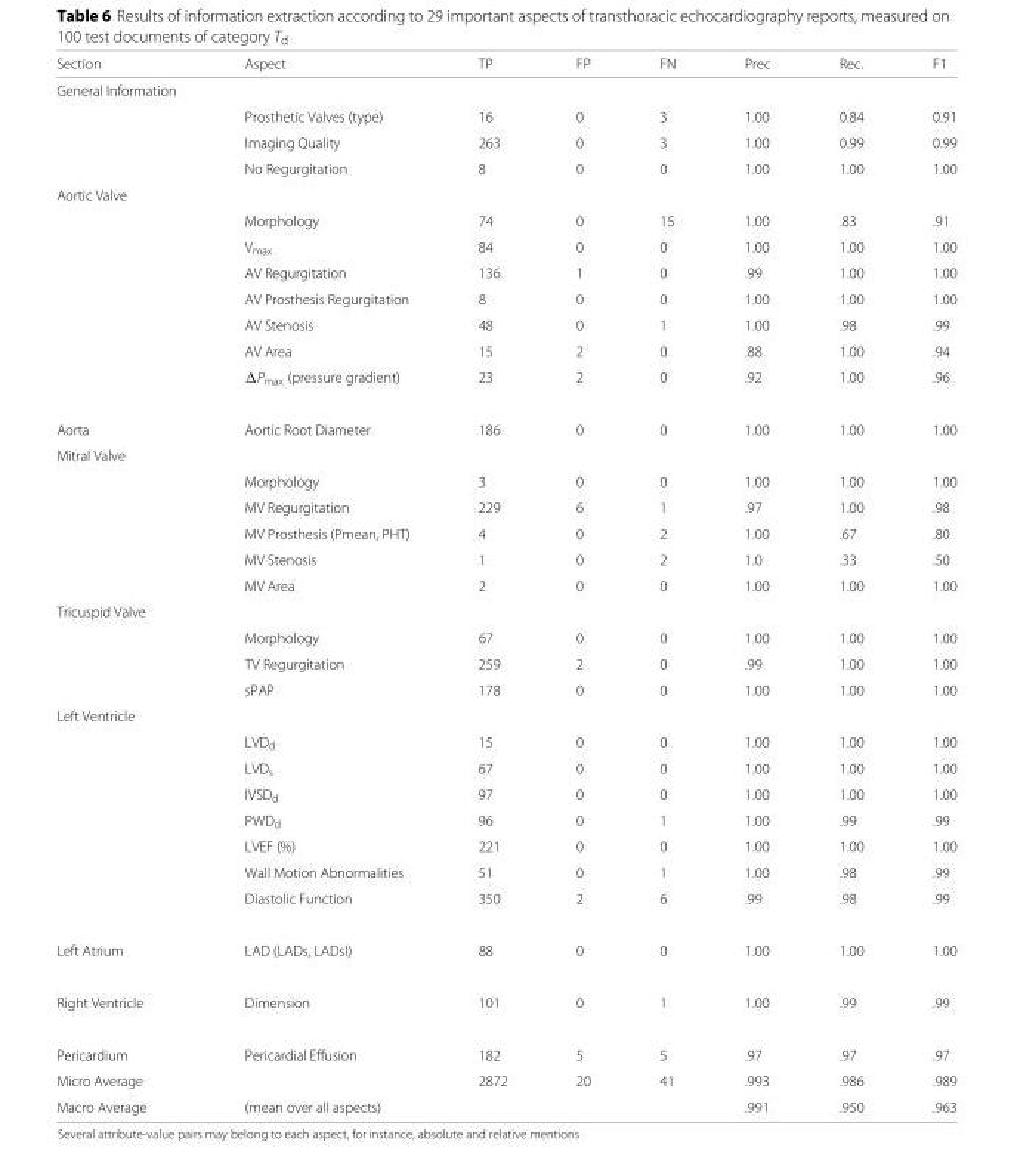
<table><thead><tr><td>Section</td><td>Aspect</td><td>TP</td><td>FP</td><td>FN</td><td>Prec</td><td>Rec.</td><td>F1</td></tr></thead><tbody><tr><td colspan="8">General Information</td></tr><tr><td></td><td>Prosthetic Valves (type)</td><td>16</td><td>0</td><td>3</td><td>1.00</td><td>0.84</td><td>0.91</td></tr><tr><td></td><td>Imaging Quality</td><td>263</td><td>0</td><td>3</td><td>1.00</td><td>0.99</td><td>0.99</td></tr><tr><td></td><td>No Regurgitation</td><td>8</td><td>0</td><td>0</td><td>1.00</td><td>1.00</td><td>1.00</td></tr><tr><td colspan="8">Aortic Valve</td></tr><tr><td></td><td>Morphology</td><td>74</td><td>0</td><td>15</td><td>1.00</td><td>.83</td><td>.91</td></tr><tr><td></td><td>V<sub>max</sub></td><td>84</td><td>0</td><td>0</td><td>1.00</td><td>1.00</td><td>1.00</td></tr><tr><td></td><td>AV Regurgitation</td><td>136</td><td>1</td><td>0</td><td>.99</td><td>1.00</td><td>1.00</td></tr><tr><td></td><td>AV Prosthesis Regurgitation</td><td>8</td><td>0</td><td>0</td><td>1.00</td><td>1.00</td><td>1.00</td></tr><tr><td></td><td>AV Stenosis</td><td>48</td><td>0</td><td>1</td><td>1.00</td><td>.98</td><td>.99</td></tr><tr><td></td><td>AV Area</td><td>15</td><td>2</td><td>0</td><td>.88</td><td>1.00</td><td>.94</td></tr><tr><td></td><td>ΔP<sub>max</sub> (pressure gradient)</td><td>23</td><td>2</td><td>0</td><td>.92</td><td>1.00</td><td>.96</td></tr><tr><td>Aorta</td><td>Aortic Root Diameter</td><td>186</td><td>0</td><td>0</td><td>1.00</td><td>1.00</td><td>1.00</td></tr><tr><td colspan="8">Mitral Valve</td></tr><tr><td></td><td>Morphology</td><td>3</td><td>0</td><td>0</td><td>1.00</td><td>1.00</td><td>1.00</td></tr><tr><td></td><td>MV Regurgitation</td><td>229</td><td>6</td><td>1</td><td>.97</td><td>1.00</td><td>.98</td></tr><tr><td></td><td>MV Prosthesis (Pmean, PHT)</td><td>4</td><td>0</td><td>2</td><td>1.00</td><td>.67</td><td>.80</td></tr><tr><td></td><td>MV Stenosis</td><td>1</td><td>0</td><td>2</td><td>1.0</td><td>.33</td><td>.50</td></tr><tr><td></td><td>MV Area</td><td>2</td><td>0</td><td>0</td><td>1.00</td><td>1.00</td><td>1.00</td></tr><tr><td colspan="8">Tricuspid Valve</td></tr><tr><td></td><td>Morphology</td><td>67</td><td>0</td><td>0</td><td>1.00</td><td>1.00</td><td>1.00</td></tr><tr><td></td><td>TV Regurgitation</td><td>259</td><td>2</td><td>0</td><td>.99</td><td>1.00</td><td>1.00</td></tr><tr><td></td><td>sPAP</td><td>178</td><td>0</td><td>0</td><td>1.00</td><td>1.00</td><td>1.00</td></tr><tr><td colspan="8">Left Ventricle</td></tr><tr><td></td><td>LVD<sub>d</sub></td><td>15</td><td>0</td><td>0</td><td>1.00</td><td>1.00</td><td>1.00</td></tr><tr><td></td><td>LVD<sub>s</sub></td><td>67</td><td>0</td><td>0</td><td>1.00</td><td>1.00</td><td>1.00</td></tr><tr><td></td><td>IVSD<sub>d</sub></td><td>97</td><td>0</td><td>0</td><td>1.00</td><td>1.00</td><td>1.00</td></tr><tr><td></td><td>PWD<sub>d</sub></td><td>96</td><td>0</td><td>1</td><td>1.00</td><td>.99</td><td>.99</td></tr><tr><td></td><td>LVEF (%)</td><td>221</td><td>0</td><td>0</td><td>1.00</td><td>1.00</td><td>1.00</td></tr><tr><td></td><td>Wall Motion Abnormalities</td><td>51</td><td>0</td><td>1</td><td>1.00</td><td>.98</td><td>.99</td></tr><tr><td></td><td>Diastolic Function</td><td>350</td><td>2</td><td>6</td><td>.99</td><td>.98</td><td>.99</td></tr><tr><td>Left Atrium</td><td>LAD (LADs, LADsI)</td><td>88</td><td>0</td><td>0</td><td>1.00</td><td>1.00</td><td>1.00</td></tr><tr><td>Right Ventricle</td><td>Dimension</td><td>101</td><td>0</td><td>1</td><td>1.00</td><td>.99</td><td>.99</td></tr><tr><td>Pericardium</td><td>Pericardial Effusion</td><td>182</td><td>5</td><td>5</td><td>.97</td><td>.97</td><td>.97</td></tr><tr><td>Micro Average</td><td></td><td>2872</td><td>20</td><td>41</td><td>.993</td><td>.986</td><td>.989</td></tr><tr><td>Macro Average</td><td>(mean over all aspects)</td><td></td><td></td><td></td><td>.991</td><td>.950</td><td>.963</td></tr></tbody></table>